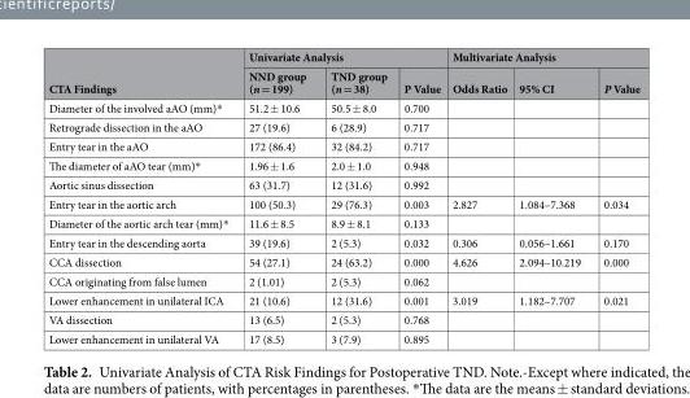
<table><thead><tr><td rowspan="2">CTA Findings</td><td colspan="3">Univariate Analysis</td><td colspan="3">Multivariate Analysis</td></tr><tr><td>NND group (n = 199)</td><td>TND group (n = 38)</td><td>P Value</td><td>Odds Ratio</td><td>95% CI</td><td>P Value</td></tr></thead><tbody><tr><td>Diameter of the involved aAO (mm)*</td><td>51.2 ± 10.6</td><td>50.5 ± 8.0</td><td>0.700</td><td></td><td></td><td></td></tr><tr><td>Retrograde dissection in the aAO</td><td>27 (19.6)</td><td>6 (28.9)</td><td>0.717</td><td></td><td></td><td></td></tr><tr><td>Entry tear in the aAO</td><td>172 (86.4)</td><td>32 (84.2)</td><td>0.717</td><td></td><td></td><td></td></tr><tr><td>The diameter of aAO tear (mm)*</td><td>1.96 ± 1.6</td><td>2.0 ± 1.0</td><td>0.948</td><td></td><td></td><td></td></tr><tr><td>Aortic sinus dissection</td><td>63 (31.7)</td><td>12 (31.6)</td><td>0.992</td><td></td><td></td><td></td></tr><tr><td>Entry tear in the aortic arch</td><td>100 (50.3)</td><td>29 (76.3)</td><td>0.003</td><td>2.827</td><td>1.084–7.368</td><td>0.034</td></tr><tr><td>Diameter of the aortic arch tear (mm)*</td><td>11.6 ± 8.5</td><td>8.9 ± 8.1</td><td>0.133</td><td></td><td></td><td></td></tr><tr><td>Entry tear in the descending aorta</td><td>39 (19.6)</td><td>2 (5.3)</td><td>0.032</td><td>0.306</td><td>0.056–1.661</td><td>0.170</td></tr><tr><td>CCA dissection</td><td>54 (27.1)</td><td>24 (63.2)</td><td>0.000</td><td>4.626</td><td>2.094–10.219</td><td>0.000</td></tr><tr><td>CCA originating from false lumen</td><td>2 (1.01)</td><td>2 (5.3)</td><td>0.062</td><td></td><td></td><td></td></tr><tr><td>Lower enhancement in unilateral ICA</td><td>21 (10.6)</td><td>12 (31.6)</td><td>0.001</td><td>3.019</td><td>1.182–7.707</td><td>0.021</td></tr><tr><td>VA dissection</td><td>13 (6.5)</td><td>2 (5.3)</td><td>0.768</td><td></td><td></td><td></td></tr><tr><td>Lower enhancement in unilateral VA</td><td>17 (8.5)</td><td>3 (7.9)</td><td>0.895</td><td></td><td></td><td></td></tr></tbody></table>